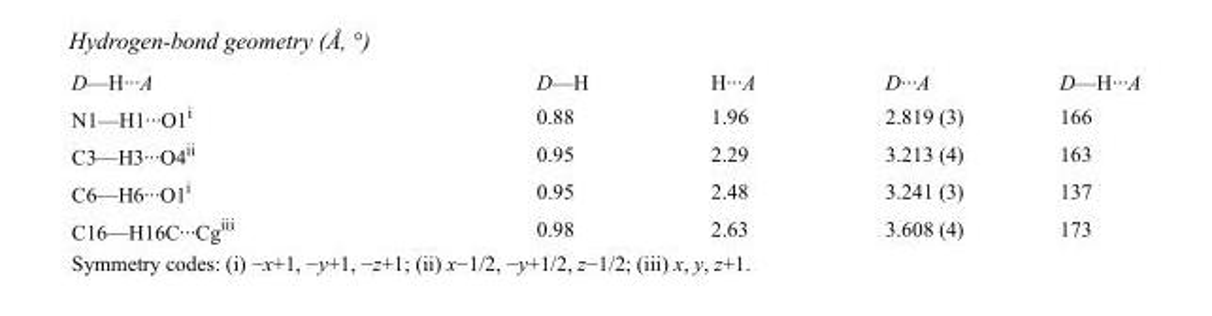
<table><tbody><tr><td>D—H···A</td><td>D—H</td><td>H···A</td><td>D···A</td><td>D—H···A</td></tr><tr><td>N1—H1···O1<sup>i</sup></td><td>0.88</td><td>1.96</td><td>2.819 (3)</td><td>166</td></tr><tr><td>C3—H3···O4<sup>ii</sup></td><td>0.95</td><td>2.29</td><td>3.213 (4)</td><td>163</td></tr><tr><td>C6—H6···O1<sup>i</sup></td><td>0.95</td><td>2.48</td><td>3.241 (3)</td><td>137</td></tr><tr><td>C16—H16C···Cg<sup>iii</sup></td><td>0.98</td><td>2.63</td><td>3.608 (4)</td><td>173</td></tr></tbody></table>